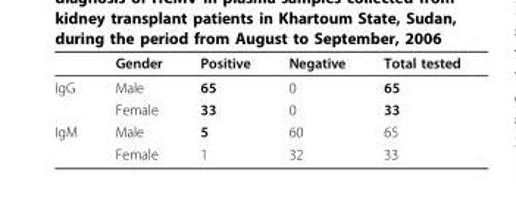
<table><thead><tr><td></td><td>Gender</td><td>Positive</td><td>Negative</td><td>Total tested</td></tr></thead><tbody><tr><td rowspan="2">IgG</td><td>Male</td><td>65</td><td>0</td><td>65</td></tr><tr><td>Female</td><td>33</td><td>0</td><td>33</td></tr><tr><td rowspan="2">IgM</td><td>Male</td><td>5</td><td>60</td><td>65</td></tr><tr><td>Female</td><td>1</td><td>32</td><td>33</td></tr></tbody></table>